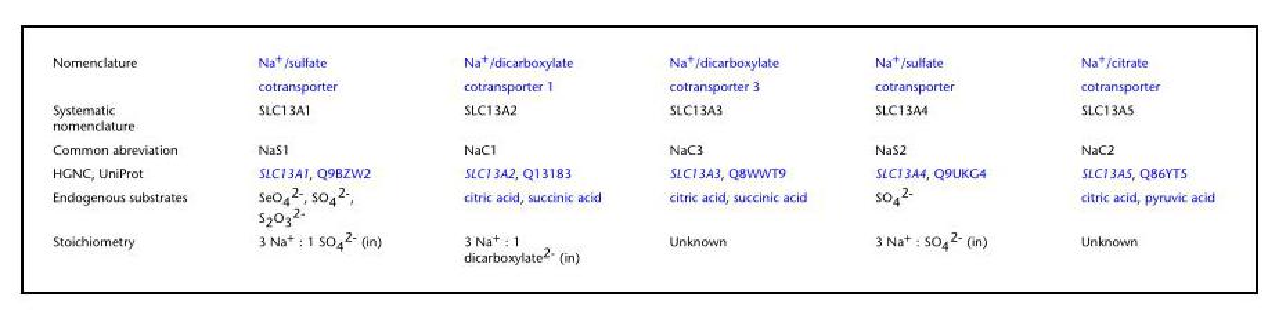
<table><tbody><tr><td rowspan="2">Nomenclature</td><td>Na<sup>+</sup>/sulfate</td><td>Na<sup>+</sup>/dicarboxylate</td><td>Na<sup>+</sup>/dicarboxylate</td><td>Na<sup>+</sup>/sulfate</td><td>Na<sup>+</sup>/citrate</td></tr><tr><td>cotransporter</td><td>cotransporter 1</td><td>cotransporter 3</td><td>cotransporter</td><td>cotransporter</td></tr><tr><td>Systematic nomenclature</td><td>SLC13A1</td><td>SLC13A2</td><td>SLC13A3</td><td>SLC13A4</td><td>SLC13A5</td></tr><tr><td>Common abreviation</td><td>NaS1</td><td>NaC1</td><td>NaC3</td><td>NaS2</td><td>NaC2</td></tr><tr><td>HGNC, UniProt</td><td>SLC13A1, Q9BZW2</td><td>SLC13A2, Q13183</td><td>SLC13A3, Q8WWT9</td><td>SLC13A4, Q9UKG4</td><td>SLC13A5, Q86YT5</td></tr><tr><td>Endogenous substrates</td><td>SeO<sub>4</sub><sup>2-</sup>, SO<sub>4</sub><sup>2-</sup>, S<sub>2</sub>O<sub>3</sub><sup>2-</sup></td><td>citric acid, succinic acid</td><td>citric acid, succinic acid</td><td>SO<sub>4</sub><sup>2-</sup></td><td>citric acid, pyruvic acid</td></tr><tr><td>Stoichiometry</td><td>3 Na<sup>+</sup> : 1 SO<sub>4</sub><sup>2-</sup> (in)</td><td>3 Na<sup>+</sup> : 1 dicarboxylate<sup>2-</sup> (in)</td><td>Unknown</td><td>3 Na<sup>+</sup> : SO<sub>4</sub><sup>2-</sup> (in)</td><td>Unknown</td></tr></tbody></table>